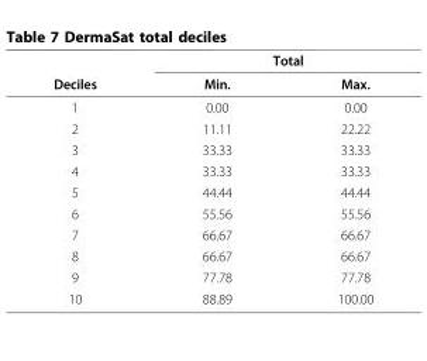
<table><thead><tr><td rowspan="2">Deciles</td><td colspan="2">Total</td></tr><tr><td>Min.</td><td>Max.</td></tr></thead><tbody><tr><td>1</td><td>0.00</td><td>0.00</td></tr><tr><td>2</td><td>11.11</td><td>22.22</td></tr><tr><td>3</td><td>33.33</td><td>33.33</td></tr><tr><td>4</td><td>33.33</td><td>33.33</td></tr><tr><td>5</td><td>44.44</td><td>44.44</td></tr><tr><td>6</td><td>55.56</td><td>55.56</td></tr><tr><td>7</td><td>66.67</td><td>66.67</td></tr><tr><td>8</td><td>66.67</td><td>66.67</td></tr><tr><td>9</td><td>77.78</td><td>77.78</td></tr><tr><td>10</td><td>88.89</td><td>100.00</td></tr></tbody></table>